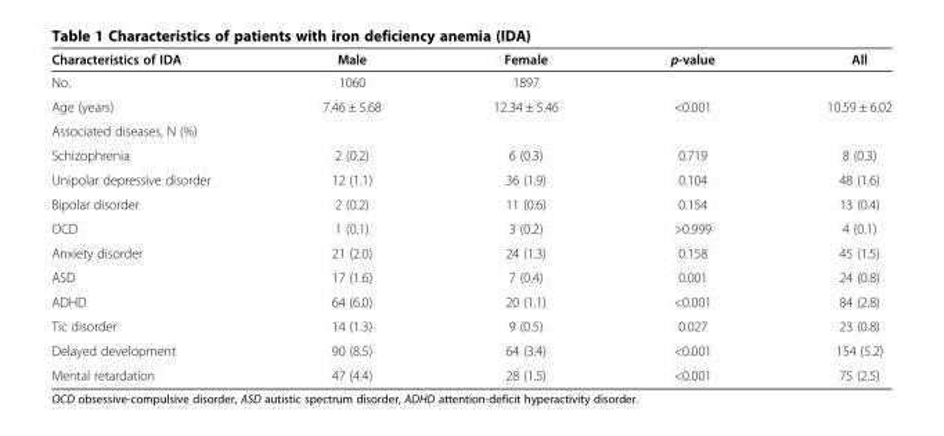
<table><thead><tr><td>Characteristics of IDA</td><td>Male</td><td>Female</td><td>p-value</td><td>All</td></tr></thead><tbody><tr><td>No.</td><td>1060</td><td>1897</td><td></td><td></td></tr><tr><td>Age (years)</td><td>7.46 ± 5.68</td><td>12.34 ± 5.46</td><td>&lt;0.001</td><td>10.59 ± 6.02</td></tr><tr><td colspan="5">Associated diseases, N (%)</td></tr><tr><td>Schizophrenia</td><td>2 (0.2)</td><td>6 (0.3)</td><td>0.719</td><td>8 (0.3)</td></tr><tr><td>Unipolar depressive disorder</td><td>12 (1.1)</td><td>36 (1.9)</td><td>0.104</td><td>48 (1.6)</td></tr><tr><td>Bipolar disorder</td><td>2 (0.2)</td><td>11 (0.6)</td><td>0.154</td><td>13 (0.4)</td></tr><tr><td>OCD</td><td>1 (0.1)</td><td>3 (0.2)</td><td>&gt;0.999</td><td>4 (0.1)</td></tr><tr><td>Anxiety disorder</td><td>21 (2.0)</td><td>24 (1.3)</td><td>0.158</td><td>45 (1.5)</td></tr><tr><td>ASD</td><td>17 (1.6)</td><td>7 (0.4)</td><td>0.001</td><td>24 (0.8)</td></tr><tr><td>ADHD</td><td>64 (6.0)</td><td>20 (1.1)</td><td>&lt;0.001</td><td>84 (2.8)</td></tr><tr><td>Tic disorder</td><td>14 (1.3)</td><td>9 (0.5)</td><td>0.027</td><td>23 (0.8)</td></tr><tr><td>Delayed development</td><td>90 (8.5)</td><td>64 (3.4)</td><td>&lt;0.001</td><td>154 (5.2)</td></tr><tr><td>Mental retardation</td><td>47 (4.4)</td><td>28 (1.5)</td><td>&lt;0.001</td><td>75 (2.5)</td></tr></tbody></table>